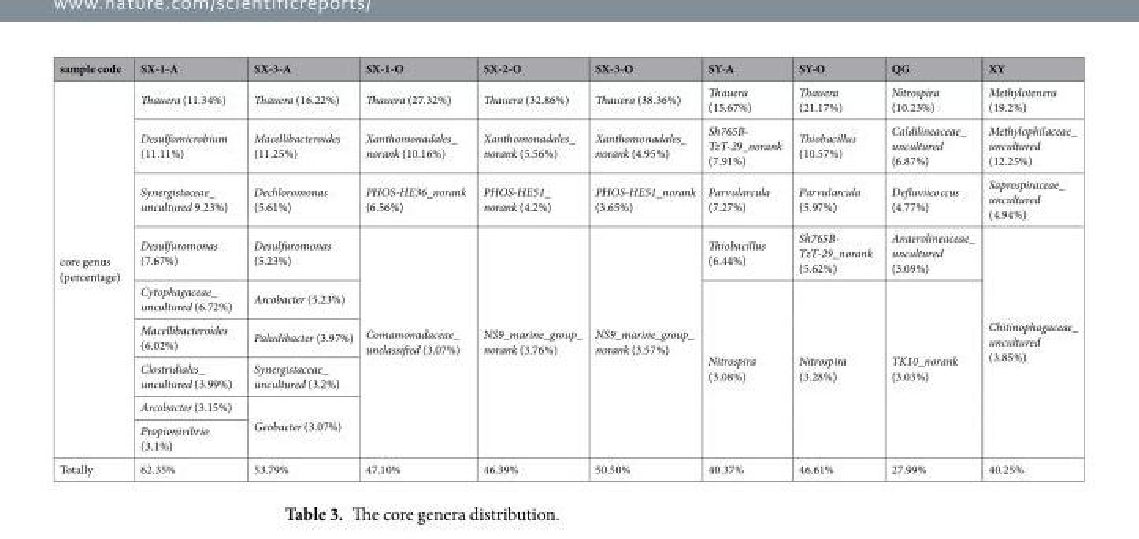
<table><thead><tr><td>sample code</td><td>SX-1-A</td><td>SX-3-A</td><td>SX-1-O</td><td>SX-2-O</td><td>SX-3-O</td><td>SY-A</td><td>SY-O</td><td>QG</td><td>XY</td></tr></thead><tbody><tr><td rowspan="9">core genus (percentage)</td><td>Thauera (11.34%)</td><td>Thauera (16.22%)</td><td>Thauera (27.32%)</td><td>Thauera (32.86%)</td><td>Thauera (38.36%)</td><td>Thauera (15.67%)</td><td>Thauera (21.17%)</td><td>Nitrospira (10.23%)</td><td>Methylotenera (19.2%)</td></tr><tr><td>Desulfomicrobium (11.11%)</td><td>Macellibacteroides (11.25%)</td><td>Xanthomonadales_ norank (10.16%)</td><td>Xanthomonadales_ norank (5.56%)</td><td>Xanthomonadales_ norank (4.95%)</td><td>Sh765B- TzT-29_norank (7.91%)</td><td>Thiobacillus (10.57%)</td><td>Caldilineaceae_ uncultured (6.87%)</td><td>Methylophilaceae_ uncultured (12.25%)</td></tr><tr><td>Synergistaceae_ uncultured 9.23%)</td><td>Dechloromonas (5.61%)</td><td>PHOS-HE36_norank (6.56%)</td><td>PHOS-HE51_ norank (4.2%)</td><td>PHOS-HE51_norank (3.65%)</td><td>Parvularcula (7.27%)</td><td>Parvularcula (5.97%)</td><td>Defluviicoccus (4.77%)</td><td>Saprospiraceae_ uncultured (4.94%)</td></tr><tr><td>Desulfuromonas (7.67%)</td><td>Desulfuromonas (5.23%)</td><td rowspan="6">Comamonadaceae_ unclassified (3.07%)</td><td rowspan="6">NS9_marine_group_ norank (3.76%)</td><td rowspan="6">NS9_marine_group_ norank (3.57%)</td><td>Thiobacillus (6.44%)</td><td>Sh765B- TzT-29_norank (5.62%)</td><td>Anaerolineaceae_ uncultured (3.09%)</td><td rowspan="6">Chitinophagaceae_ uncultured (3.85%)</td></tr><tr><td>Cytophagaceae_ uncultured (6.72%)</td><td>Arcobacter (5.23%)</td><td rowspan="5">Nitrospira (3.08%)</td><td rowspan="5">Nitrospira (3.28%)</td><td rowspan="5">TK10_norank (3.03%)</td></tr><tr><td>Macellibacteroides (6.02%)</td><td>Paludibacter (3.97%)</td></tr><tr><td>Clostridiales_ uncultured (3.99%)</td><td>Synergistaceae_ uncultured (3.2%)</td></tr><tr><td>Arcobacter (3.15%)</td><td rowspan="2">Geobacter (3.07%)</td></tr><tr><td>Propionivibrio (3.1%)</td></tr><tr><td>Totally</td><td>62.35%</td><td>53.79%</td><td>47.10%</td><td>46.39%</td><td>50.50%</td><td>40.37%</td><td>46.61%</td><td>27.99%</td><td>40.25%</td></tr></tbody></table>